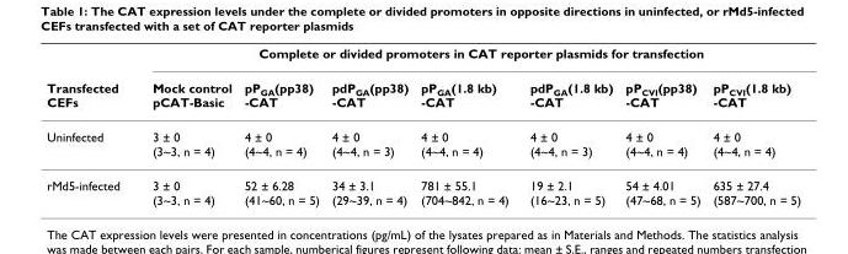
<table><thead><tr><td rowspan="2">Transfected CEFs</td><td colspan="7">Complete or divided promoters in CAT reporter plasmids for transfection</td></tr><tr><td>Mock control pCAT-Basic</td><td>pP<sub>GA</sub>(pp38) -CAT</td><td>pdP<sub>GA</sub>(pp38) -CAT</td><td>pP<sub>GA</sub>(1.8 kb) -CAT</td><td>pdP<sub>GA</sub>(1.8 kb) -CAT</td><td>pP<sub>CVI</sub>(pp38) -CAT</td><td>pP<sub>CVI</sub>(1.8 kb) -CAT</td></tr></thead><tbody><tr><td>Uninfected</td><td>3 ± 0 (3~3, n = 4)</td><td>4 ± 0 (4~4, n = 4)</td><td>4 ± 0 (4~4, n = 3)</td><td>4 ± 0 (4~4, n = 4)</td><td>4 ± 0 (4~4, n = 3)</td><td>4 ± 0 (4~4, n = 4)</td><td>4 ± 0 (4~4, n = 4)</td></tr><tr><td>rMd5-infected</td><td>3 ± 0 (3~3, n = 4)</td><td>52 ± 6.28 (41~60, n = 5)</td><td>34 ± 3.1 (29~39, n = 4)</td><td>781 ± 55.1 (704~842, n = 4)</td><td>19 ± 2.1 (16~23, n = 5)</td><td>54 ± 4.01 (47~68, n = 5)</td><td>635 ± 27.4 (587~700, n = 5)</td></tr></tbody></table>